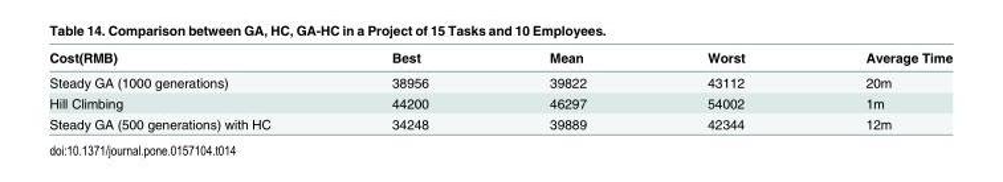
<table><thead><tr><td>Cost(RMB)</td><td>Best</td><td>Mean</td><td>Worst</td><td>Average Time</td></tr></thead><tbody><tr><td>Steady GA (1000 generations)</td><td>38956</td><td>39822</td><td>43112</td><td>20m</td></tr><tr><td>Hill Climbing</td><td>44200</td><td>46297</td><td>54002</td><td>1m</td></tr><tr><td>Steady GA (500 generations) with HC</td><td>34248</td><td>39889</td><td>42344</td><td>12m</td></tr></tbody></table>